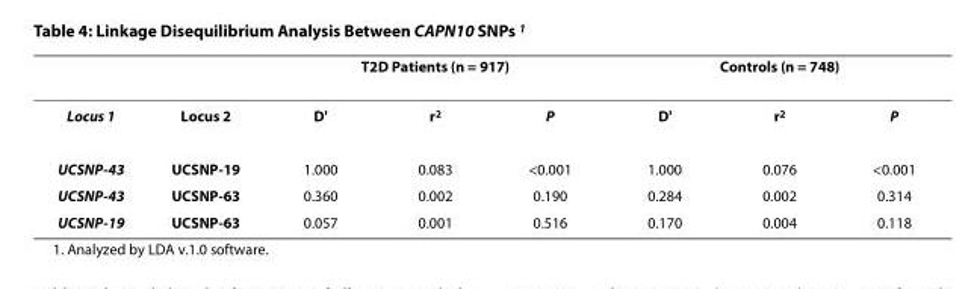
<table><thead><tr><td rowspan="2">Locus 1</td><td rowspan="2">Locus 2</td><td colspan="3">T2D Patients (n = 917)</td><td colspan="3">Controls (n = 748)</td></tr><tr><td>D&#x27;</td><td>r<sup>2</sup></td><td>P</td><td>D&#x27;</td><td>r<sup>2</sup></td><td>P</td></tr></thead><tbody><tr><td>UCSNP-43</td><td>UCSNP-19</td><td>1.000</td><td>0.083</td><td>&lt;0.001</td><td>1.000</td><td>0.076</td><td>&lt;0.001</td></tr><tr><td>UCSNP-43</td><td>UCSNP-63</td><td>0.360</td><td>0.002</td><td>0.190</td><td>0.284</td><td>0.002</td><td>0.314</td></tr><tr><td>UCSNP-19</td><td>UCSNP-63</td><td>0.057</td><td>0.001</td><td>0.516</td><td>0.170</td><td>0.004</td><td>0.118</td></tr></tbody></table>